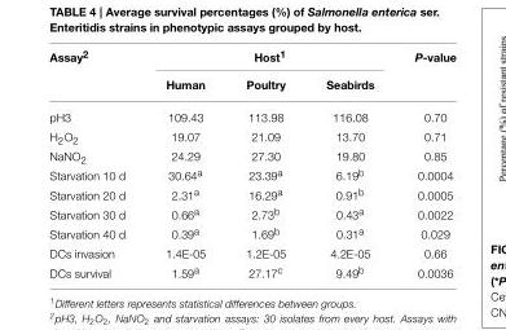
<table><thead><tr><td rowspan="2">Assay<sup>2</sup></td><td colspan="3">Host<sup>1</sup></td><td rowspan="2">P-value</td></tr><tr><td>Human</td><td>Poultry</td><td>Seabirds</td></tr></thead><tbody><tr><td>pH3</td><td>109.43</td><td>113.98</td><td>116.08</td><td>0.70</td></tr><tr><td>H<sub>2</sub>O<sub>2</sub></td><td>19.07</td><td>21.09</td><td>13.70</td><td>0.71</td></tr><tr><td>NaNO<sub>2</sub></td><td>24.29</td><td>27.30</td><td>19.80</td><td>0.85</td></tr><tr><td>Starvation 10 d</td><td>30.64<sup>a</sup></td><td>23.39<sup>a</sup></td><td>6.19<sup>b</sup></td><td>0.0004</td></tr><tr><td>Starvation 20 d</td><td>2.31<sup>a</sup></td><td>16.29<sup>a</sup></td><td>0.91<sup>b</sup></td><td>0.0005</td></tr><tr><td>Starvation 30 d</td><td>0.66<sup>a</sup></td><td>2.73<sup>b</sup></td><td>0.43<sup>a</sup></td><td>0.0022</td></tr><tr><td>Starvation 40 d</td><td>0.39<sup>a</sup></td><td>1.69<sup>b</sup></td><td>0.31<sup>a</sup></td><td>0.029</td></tr><tr><td>DCs invasion</td><td>1.4E-05</td><td>1.2E-05</td><td>4.2E-05</td><td>0.66</td></tr><tr><td>DCs survival</td><td>1.59<sup>a</sup></td><td>27.17<sup>c</sup></td><td>9.49<sup>b</sup></td><td>0.0036</td></tr></tbody></table>